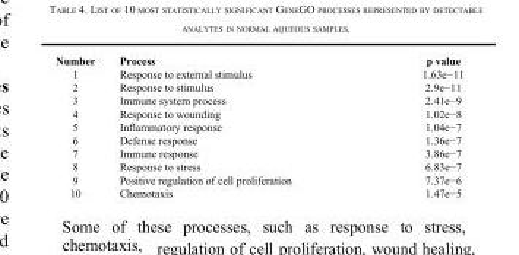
<table><thead><tr><td>Number</td><td>Process</td><td>p value</td></tr></thead><tbody><tr><td>1</td><td>Response to external stimulus</td><td>1.63e−11</td></tr><tr><td>2</td><td>Response to stimulus</td><td>2.9e−11</td></tr><tr><td>3</td><td>Immune system process</td><td>2.41e−9</td></tr><tr><td>4</td><td>Response to wounding</td><td>1.02e−8</td></tr><tr><td>5</td><td>Inflammatory response</td><td>1.04e−7</td></tr><tr><td>6</td><td>Defense response</td><td>1.36e−7</td></tr><tr><td>7</td><td>Immune response</td><td>3.86e−7</td></tr><tr><td>8</td><td>Response to stress</td><td>6.83e−7</td></tr><tr><td>9</td><td>Positive regulation of cell proliferation</td><td>7.37e−6</td></tr><tr><td>10</td><td>Chemotaxis</td><td>1.47e−5</td></tr></tbody></table>